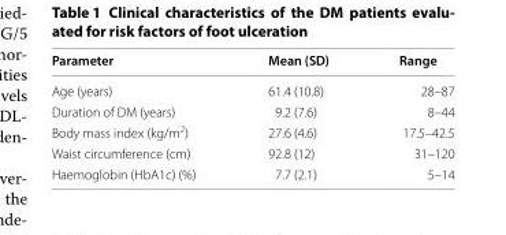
<table><thead><tr><td>Parameter</td><td>Mean (SD)</td><td>Range</td></tr></thead><tbody><tr><td>Age (years)</td><td>61.4 (10.8)</td><td>28–87</td></tr><tr><td>Duration of DM (years)</td><td>9.2 (7.6)</td><td>8–44</td></tr><tr><td>Body mass index (kg/m<sup>2</sup>)</td><td>27.6 (4.6)</td><td>17.5–42.5</td></tr><tr><td>Waist circumference (cm)</td><td>92.8 (12)</td><td>31–120</td></tr><tr><td>Haemoglobin (HbA1c) (%)</td><td>7.7 (2.1)</td><td>5–14</td></tr></tbody></table>